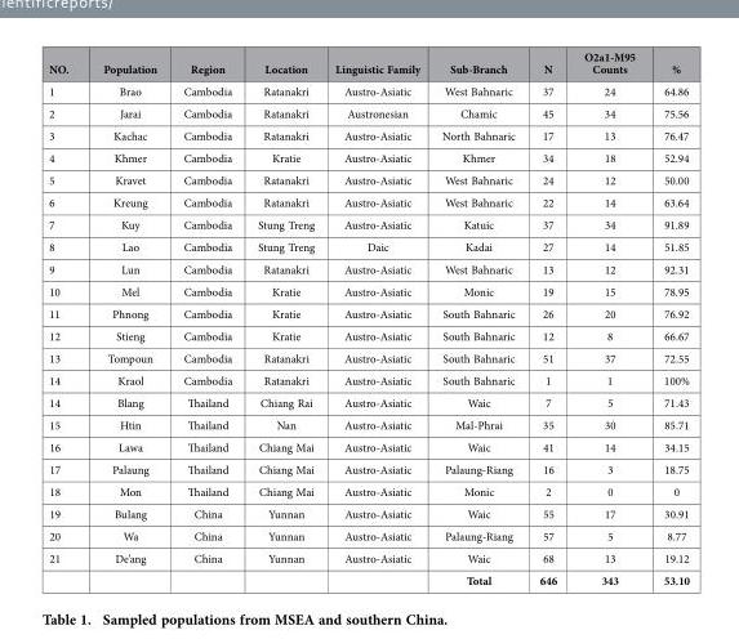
<table><thead><tr><td>NO.</td><td>Population</td><td>Region</td><td>Location</td><td>Linguistic Family</td><td>Sub-Branch</td><td>N</td><td>O2a1-M95 Counts</td><td>%</td></tr></thead><tbody><tr><td>1</td><td>Brao</td><td>Cambodia</td><td>Ratanakri</td><td>Austro-Asiatic</td><td>West Bahnaric</td><td>37</td><td>24</td><td>64.86</td></tr><tr><td>2</td><td>Jarai</td><td>Cambodia</td><td>Ratanakri</td><td>Austronesian</td><td>Chamic</td><td>45</td><td>34</td><td>75.56</td></tr><tr><td>3</td><td>Kachac</td><td>Cambodia</td><td>Ratanakri</td><td>Austro-Asiatic</td><td>North Bahnaric</td><td>17</td><td>13</td><td>76.47</td></tr><tr><td>4</td><td>Khmer</td><td>Cambodia</td><td>Kratie</td><td>Austro-Asiatic</td><td>Khmer</td><td>34</td><td>18</td><td>52.94</td></tr><tr><td>5</td><td>Kravet</td><td>Cambodia</td><td>Ratanakri</td><td>Austro-Asiatic</td><td>West Bahnaric</td><td>24</td><td>12</td><td>50.00</td></tr><tr><td>6</td><td>Kreung</td><td>Cambodia</td><td>Ratanakri</td><td>Austro-Asiatic</td><td>West Bahnaric</td><td>22</td><td>14</td><td>63.64</td></tr><tr><td>7</td><td>Kuy</td><td>Cambodia</td><td>Stung Treng</td><td>Austro-Asiatic</td><td>Katuic</td><td>37</td><td>34</td><td>91.89</td></tr><tr><td>8</td><td>Lao</td><td>Cambodia</td><td>Stung Treng</td><td>Daic</td><td>Kadai</td><td>27</td><td>14</td><td>51.85</td></tr><tr><td>9</td><td>Lun</td><td>Cambodia</td><td>Ratanakri</td><td>Austro-Asiatic</td><td>West Bahnaric</td><td>13</td><td>12</td><td>92.31</td></tr><tr><td>10</td><td>Mel</td><td>Cambodia</td><td>Kratie</td><td>Austro-Asiatic</td><td>Monic</td><td>19</td><td>15</td><td>78.95</td></tr><tr><td>11</td><td>Phnong</td><td>Cambodia</td><td>Kratie</td><td>Austro-Asiatic</td><td>South Bahnaric</td><td>26</td><td>20</td><td>76.92</td></tr><tr><td>12</td><td>Stieng</td><td>Cambodia</td><td>Kratie</td><td>Austro-Asiatic</td><td>South Bahnaric</td><td>12</td><td>8</td><td>66.67</td></tr><tr><td>13</td><td>Tompoun</td><td>Cambodia</td><td>Ratanakri</td><td>Austro-Asiatic</td><td>South Bahnaric</td><td>51</td><td>37</td><td>72.55</td></tr><tr><td>14</td><td>Kraol</td><td>Cambodia</td><td>Ratanakri</td><td>Austro-Asiatic</td><td>South Bahnaric</td><td>1</td><td>1</td><td>100%</td></tr><tr><td>14</td><td>Blang</td><td>Thailand</td><td>Chiang Rai</td><td>Austro-Asiatic</td><td>Waic</td><td>7</td><td>5</td><td>71.43</td></tr><tr><td>15</td><td>Htin</td><td>Thailand</td><td>Nan</td><td>Austro-Asiatic</td><td>Mal-Phrai</td><td>35</td><td>30</td><td>85.71</td></tr><tr><td>16</td><td>Lawa</td><td>Thailand</td><td>Chiang Mai</td><td>Austro-Asiatic</td><td>Waic</td><td>41</td><td>14</td><td>34.15</td></tr><tr><td>17</td><td>Palaung</td><td>Thailand</td><td>Chiang Mai</td><td>Austro-Asiatic</td><td>Palaung-Riang</td><td>16</td><td>3</td><td>18.75</td></tr><tr><td>18</td><td>Mon</td><td>Thailand</td><td>Chiang Mai</td><td>Austro-Asiatic</td><td>Monic</td><td>2</td><td>0</td><td>0</td></tr><tr><td>19</td><td>Bulang</td><td>China</td><td>Yunnan</td><td>Austro-Asiatic</td><td>Waic</td><td>55</td><td>17</td><td>30.91</td></tr><tr><td>20</td><td>Wa</td><td>China</td><td>Yunnan</td><td>Austro-Asiatic</td><td>Palaung-Riang</td><td>57</td><td>5</td><td>8.77</td></tr><tr><td rowspan="2">21</td><td>De’ang</td><td>China</td><td>Yunnan</td><td>Austro-Asiatic</td><td>Waic</td><td>68</td><td>13</td><td>19.12</td></tr><tr><td></td><td></td><td></td><td></td><td>Total</td><td>646</td><td>343</td><td>53.10</td></tr></tbody></table>